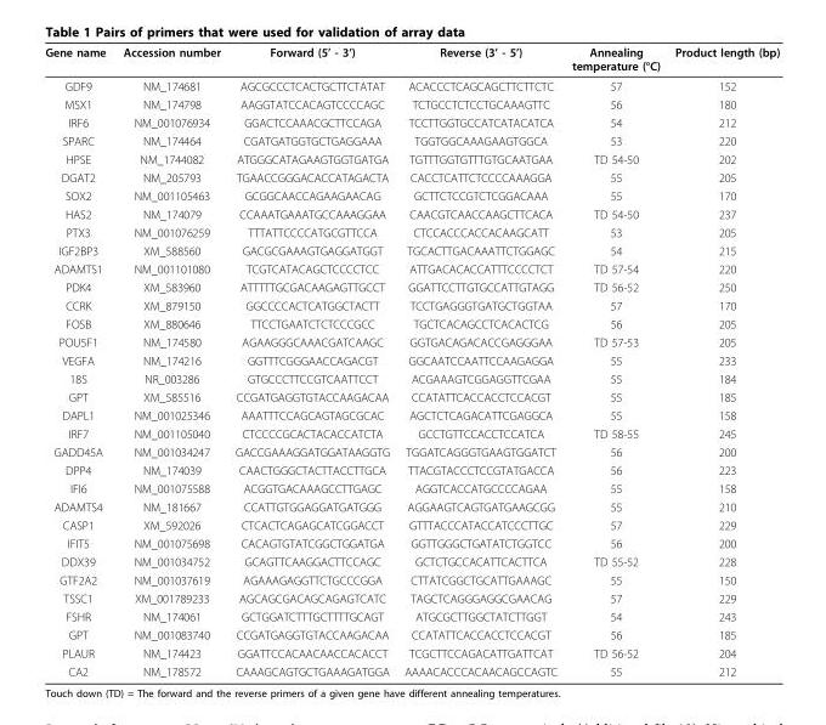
<table><thead><tr><td>Gene name</td><td>Accession number</td><td>Forward (5’ - 3’)</td><td>Reverse (3’ - 5’)</td><td>Annealing temperature (°C)</td><td>Product length (bp)</td></tr></thead><tbody><tr><td>GDF9</td><td>NM_174681</td><td>AGCGCCCTCACTGCTTCTATAT</td><td>ACACCCTCAGCAGCTTCTTCTC</td><td>57</td><td>152</td></tr><tr><td>MSX1</td><td>NM_174798</td><td>AAGGTATCCACAGTCCCCAGC</td><td>TCTGCCTCTCCTGCAAAGTTC</td><td>56</td><td>180</td></tr><tr><td>IRF6</td><td>NM_001076934</td><td>GGACTCCAAACGCTTCCAGA</td><td>TCCTTGGTGCCATCATACATCA</td><td>54</td><td>212</td></tr><tr><td>SPARC</td><td>NM_174464</td><td>CGATGATGGTGCTGAGGAAA</td><td>TGGTGGCAAAGAAGTGGCA</td><td>53</td><td>220</td></tr><tr><td>HPSE</td><td>NM_1744082</td><td>ATGGGCATAGAAGTGGTGATGA</td><td>TGTTTGGTGTTTGTGCAATGAA</td><td>TD 54-50</td><td>202</td></tr><tr><td>DGAT2</td><td>NM_205793</td><td>TGAACCGGGACACCATAGACTA</td><td>CACCTCATTCTCCCCAAAGGA</td><td>55</td><td>205</td></tr><tr><td>SOX2</td><td>NM_001105463</td><td>GCGGCAACCAGAAGAACAG</td><td>GCTTCTCCGTCTCGGACAAA</td><td>55</td><td>170</td></tr><tr><td>HAS2</td><td>NM_174079</td><td>CCAAATGAAATGCCAAAGGAA</td><td>CAACGTCAACCAAGCTTCACA</td><td>TD 54-50</td><td>237</td></tr><tr><td>PTX3</td><td>NM_001076259</td><td>TTTATTCCCCATGCGTTCCA</td><td>CTCCACCCACCACAAGCATT</td><td>53</td><td>205</td></tr><tr><td>IGF2BP3</td><td>XM_588560</td><td>GACGCGAAAGTGAGGATGGT</td><td>TGCACTTGACAAATTCTGGAGC</td><td>54</td><td>215</td></tr><tr><td>ADAMTS1</td><td>NM_001101080</td><td>TCGTCATACAGCTCCCCTCC</td><td>ATTGACACACCATTTCCCCTCT</td><td>TD 57-54</td><td>220</td></tr><tr><td>PDK4</td><td>XM_583960</td><td>ATTTTTGCGACAAGAGTTGCCT</td><td>GGATTCCTTGTGCCATTGTAGG</td><td>TD 56-52</td><td>250</td></tr><tr><td>CCRK</td><td>XM_879150</td><td>GGCCCCACTCATGGCTACTT</td><td>TCCTGAGGGTGATGCTGGTAA</td><td>57</td><td>170</td></tr><tr><td>FOSB</td><td>XM_880646</td><td>TTCCTGAATCTCTCCCGCC</td><td>TGCTCACAGCCTCACACTCG</td><td>56</td><td>205</td></tr><tr><td>POU5F1</td><td>NM_174580</td><td>AGAAGGGCAAACGATCAAGC</td><td>GGTGACAGACACCGAGGGAA</td><td>TD 57-53</td><td>205</td></tr><tr><td>VEGFA</td><td>NM_174216</td><td>GGTTTCGGGAACCAGACGT</td><td>GGCAATCCAATTCCAAGAGGA</td><td>55</td><td>233</td></tr><tr><td>18S</td><td>NR_003286</td><td>GTGCCCTTCCGTCAATTCCT</td><td>ACGAAAGTCGGAGGTTCGAA</td><td>55</td><td>184</td></tr><tr><td>GPT</td><td>XM_585516</td><td>CCGATGAGGTGTACCAAGACAA</td><td>CCATATTCACCACCTCCACGT</td><td>55</td><td>185</td></tr><tr><td>DAPL1</td><td>NM_001025346</td><td>AAATTTCCAGCAGTAGCGCAC</td><td>AGCTCTCAGACATTCGAGGCA</td><td>55</td><td>158</td></tr><tr><td>IRF7</td><td>NM_001105040</td><td>CTCCCCGCACTACACCATCTA</td><td>GCCTGTTCCACCTCCATCA</td><td>TD 58-55</td><td>245</td></tr><tr><td>GADD45A</td><td>NM_001034247</td><td>GACCGAAAGGATGGATAAGGTG</td><td>TGGATCAGGGTGAAGTGGATCT</td><td>56</td><td>200</td></tr><tr><td>DPP4</td><td>NM_174039</td><td>CAACTGGGCTACTTACCTTGCA</td><td>TTACGTACCCTCCGTATGACCA</td><td>56</td><td>223</td></tr><tr><td>IFI6</td><td>NM_001075588</td><td>ACGGTGACAAAGCCTTGAGC</td><td>AGGTCACCATGCCCCAGAA</td><td>55</td><td>158</td></tr><tr><td>ADAMTS4</td><td>NM_181667</td><td>CCATTGTGGAGGATGATGGG</td><td>AGGAAGTCAGTGATGAAGCGG</td><td>55</td><td>210</td></tr><tr><td>CASP1</td><td>XM_592026</td><td>CTCACTCAGAGCATCGGACCT</td><td>GTTTACCCATACCATCCCTTGC</td><td>57</td><td>229</td></tr><tr><td>IFIT5</td><td>NM_001075698</td><td>CACAGTGTATCGGCTGGATGA</td><td>GGTTGGGCTGATATCTGGTCC</td><td>56</td><td>200</td></tr><tr><td>DDX39</td><td>NM_001034752</td><td>GCAGTTCAAGGACTTCCAGC</td><td>GCTCTGCCACATTCACTTCA</td><td>TD 55-52</td><td>228</td></tr><tr><td>GTF2A2</td><td>NM_001037619</td><td>AGAAAGAGGTTCTGCCCGGA</td><td>CTTATCGGCTGCATTGAAAGC</td><td>55</td><td>150</td></tr><tr><td>TSSC1</td><td>XM_001789233</td><td>AGCAGCGACAGCAGAGTCATC</td><td>TAGCTCAGGGAGGCGAACAG</td><td>57</td><td>229</td></tr><tr><td>FSHR</td><td>NM_174061</td><td>GCTGGATCTTTGCTTTTGCAGT</td><td>ATGCGCTTGGCTATCTTGGT</td><td>54</td><td>243</td></tr><tr><td>GPT</td><td>NM_001083740</td><td>CCGATGAGGTGTACCAAGACAA</td><td>CCATATTCACCACCTCCACGT</td><td>56</td><td>185</td></tr><tr><td>PLAUR</td><td>NM_174423</td><td>GGATTCCACAACAACCACACCT</td><td>TCGCTTCCAGACATTGATTCAT</td><td>TD 56-52</td><td>204</td></tr><tr><td>CA2</td><td>NM_178572</td><td>CAAAGCAGTGCTGAAAGATGGA</td><td>AAAACACCCACAACAGCCAGTC</td><td>55</td><td>212</td></tr></tbody></table>